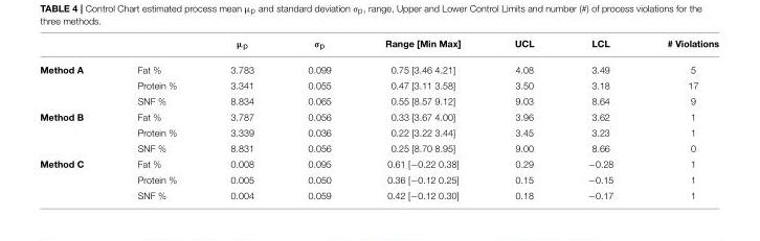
<table><thead><tr><td></td><td></td><td>µ<sub>p</sub></td><td>σ<sub>p</sub></td><td>Range [Min Max]</td><td>UCL</td><td>LCL</td><td># Violations</td></tr></thead><tbody><tr><td rowspan="3">Method A</td><td>Fat %</td><td>3.783</td><td>0.099</td><td>0.75 [3.46 4.21]</td><td>4.08</td><td>3.49</td><td>5</td></tr><tr><td>Protein %</td><td>3.341</td><td>0.055</td><td>0.47 [3.11 3.58]</td><td>3.50</td><td>3.18</td><td>17</td></tr><tr><td>SNF %</td><td>8.834</td><td>0.065</td><td>0.55 [8.57 9.12]</td><td>9.03</td><td>8.64</td><td>9</td></tr><tr><td rowspan="3">Method B</td><td>Fat %</td><td>3.787</td><td>0.056</td><td>0.33 [3.67 4.00]</td><td>3.96</td><td>3.62</td><td>1</td></tr><tr><td>Protein %</td><td>3.339</td><td>0.036</td><td>0.22 [3.22 3.44]</td><td>3.45</td><td>3.23</td><td>1</td></tr><tr><td>SNF %</td><td>8.831</td><td>0.056</td><td>0.25 [8.70 8.95]</td><td>9.00</td><td>8.66</td><td>0</td></tr><tr><td rowspan="3">Method C</td><td>Fat %</td><td>0.008</td><td>0.095</td><td>0.61 [−0.22 0.38]</td><td>0.29</td><td>−0.28</td><td>1</td></tr><tr><td>Protein %</td><td>0.005</td><td>0.050</td><td>0.36 [−0.12 0.25]</td><td>0.15</td><td>−0.15</td><td>1</td></tr><tr><td>SNF %</td><td>0.004</td><td>0.059</td><td>0.42 [−0.12 0.30]</td><td>0.18</td><td>−0.17</td><td>1</td></tr></tbody></table>